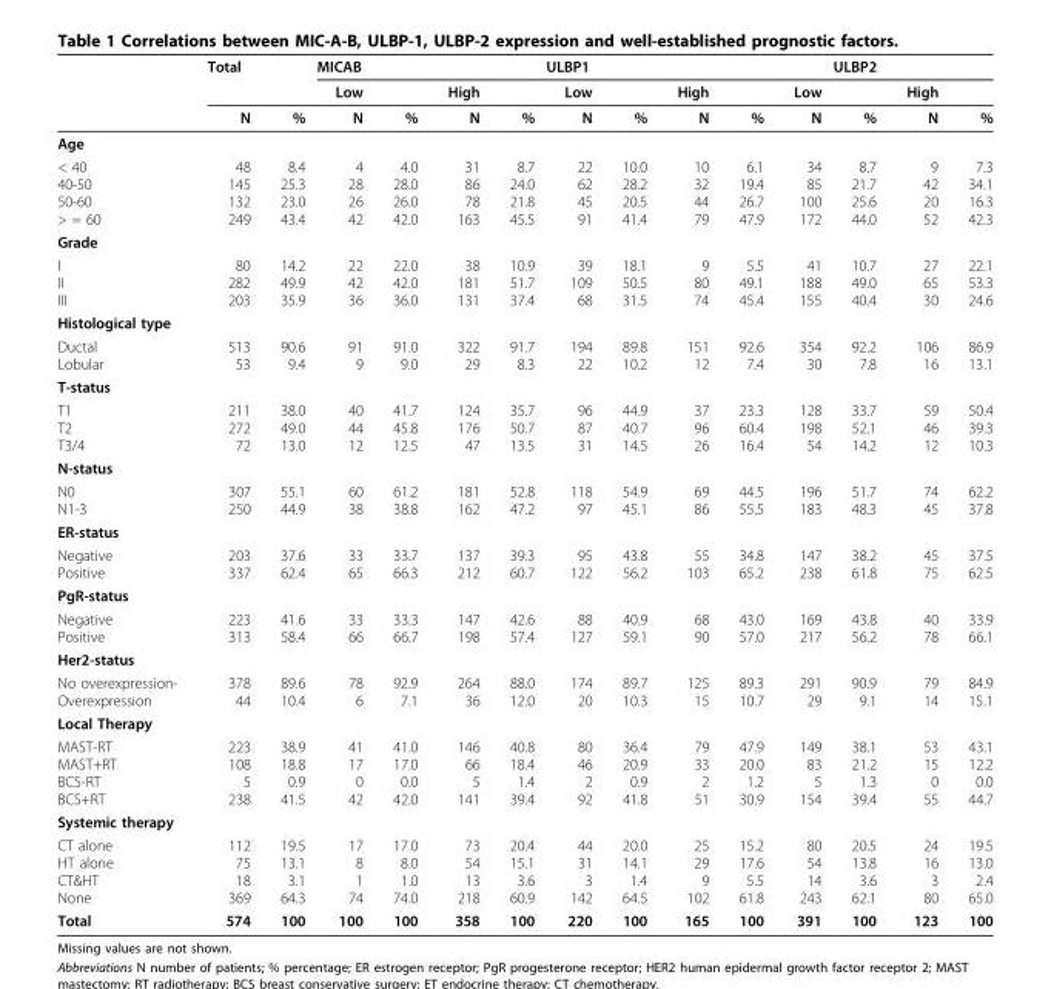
<table><thead><tr><td rowspan="3"></td><td colspan="2">Total</td><td colspan="2">MICAB</td><td rowspan="3">High N</td><td rowspan="3">%</td><td colspan="4">ULBP1</td><td colspan="2">ULBP2</td><td rowspan="3">High N</td><td rowspan="3">%</td></tr><tr><td rowspan="2">N</td><td rowspan="2">%</td><td rowspan="2">Low N</td><td rowspan="2">%</td><td rowspan="2">Low N</td><td rowspan="2">%</td><td rowspan="2">High N</td><td rowspan="2">%</td><td rowspan="2">Low N</td><td rowspan="2">%</td></tr><tr></tr></thead><tbody><tr><td colspan="15">Age</td></tr><tr><td>&lt; 40 40-50 50-60 &gt; = 60</td><td>48 145 132 249</td><td>8.4 25.3 23.0 43.4</td><td>4 28 26 42</td><td>4.0 28.0 26.0 42.0</td><td>31 86 78 163</td><td>8.7 24.0 21.8 45.5</td><td>22 62 45 91</td><td>10.0 28.2 20.5 41.4</td><td>10 32 44 79</td><td>6.1 19.4 26.7 47.9</td><td>34 85 100 172</td><td>8.7 21.7 25.6 44.0</td><td>9 42 20 52</td><td>7.3 34.1 16.3 42.3</td></tr><tr><td colspan="15">Grade</td></tr><tr><td>I II III</td><td>80 282 203</td><td>14.2 49.9 35.9</td><td>22 42 36</td><td>22.0 42.0 36.0</td><td>38 181 131</td><td>10.9 51.7 37.4</td><td>39 109 68</td><td>18.1 50.5 31.5</td><td>9 80 74</td><td>5.5 49.1 45.4</td><td>41 188 155</td><td>10.7 49.0 40.4</td><td>27 65 30</td><td>22.1 53.3 24.6</td></tr><tr><td colspan="15">Histological type</td></tr><tr><td>Ductal Lobular</td><td>513 53</td><td>90.6 9.4</td><td>91 9</td><td>91.0 9.0</td><td>322 29</td><td>91.7 8.3</td><td>194 22</td><td>89.8 10.2</td><td>151 12</td><td>92.6 7.4</td><td>354 30</td><td>92.2 7.8</td><td>106 16</td><td>86.9 13.1</td></tr><tr><td colspan="15">T-status</td></tr><tr><td>T1 T2 T3/4</td><td>211 272 72</td><td>38.0 49.0 13.0</td><td>40 44 12</td><td>41.7 45.8 12.5</td><td>124 176 47</td><td>35.7 50.7 13.5</td><td>96 87 31</td><td>44.9 40.7 14.5</td><td>37 96 26</td><td>23.3 60.4 16.4</td><td>128 198 54</td><td>33.7 52.1 14.2</td><td>59 46 12</td><td>50.4 39.3 10.3</td></tr><tr><td colspan="15">N-status</td></tr><tr><td>N0 N1-3</td><td>307 250</td><td>55.1 44.9</td><td>60 38</td><td>61.2 38.8</td><td>181 162</td><td>52.8 47.2</td><td>118 97</td><td>54.9 45.1</td><td>69 86</td><td>44.5 55.5</td><td>196 183</td><td>51.7 48.3</td><td>74 45</td><td>62.2 37.8</td></tr><tr><td colspan="15">ER-status</td></tr><tr><td>Negative Positive</td><td>203 337</td><td>37.6 62.4</td><td>33 65</td><td>33.7 66.3</td><td>137 212</td><td>39.3 60.7</td><td>95 122</td><td>43.8 56.2</td><td>55 103</td><td>34.8 65.2</td><td>147 238</td><td>38.2 61.8</td><td>45 75</td><td>37.5 62.5</td></tr><tr><td colspan="15">PgR-status</td></tr><tr><td>Negative Positive</td><td>223 313</td><td>41.6 58.4</td><td>33 66</td><td>33.3 66.7</td><td>147 198</td><td>42.6 57.4</td><td>88 127</td><td>40.9 59.1</td><td>68 90</td><td>43.0 57.0</td><td>169 217</td><td>43.8 56.2</td><td>40 78</td><td>33.9 66.1</td></tr><tr><td colspan="15">Her2-status</td></tr><tr><td>No overexpression- Overexpression</td><td>378 44</td><td>89.6 10.4</td><td>78 6</td><td>92.9 7.1</td><td>264 36</td><td>88.0 12.0</td><td>174 20</td><td>89.7 10.3</td><td>125 15</td><td>89.3 10.7</td><td>291 29</td><td>90.9 9.1</td><td>79 14</td><td>84.9 15.1</td></tr><tr><td colspan="15">Local Therapy</td></tr><tr><td>MAST-RT MAST+RT BCS-RT BCS+RT</td><td>223 108 5 238</td><td>38.9 18.8 0.9 41.5</td><td>41 17 0 42</td><td>41.0 17.0 0.0 42.0</td><td>146 66 5 141</td><td>40.8 18.4 1.4 39.4</td><td>80 46 2 92</td><td>36.4 20.9 0.9 41.8</td><td>79 33 2 51</td><td>47.9 20.0 1.2 30.9</td><td>149 83 5 154</td><td>38.1 21.2 1.3 39.4</td><td>53 15 0 55</td><td>43.1 12.2 0.0 44.7</td></tr><tr><td colspan="15">Systemic therapy</td></tr><tr><td>CT alone HT alone CT&amp;HT None</td><td>112 75 18 369</td><td>19.5 13.1 3.1 64.3</td><td>17 8 1 74</td><td>17.0 8.0 1.0 74.0</td><td>73 54 13 218</td><td>20.4 15.1 3.6 60.9</td><td>44 31 3 142</td><td>20.0 14.1 1.4 64.5</td><td>25 29 9 102</td><td>15.2 17.6 5.5 61.8</td><td>80 54 14 243</td><td>20.5 13.8 3.6 62.1</td><td>24 16 3 80</td><td>19.5 13.0 2.4 65.0</td></tr><tr><td>Total</td><td>574</td><td>100</td><td>100</td><td>100</td><td>358</td><td>100</td><td>220</td><td>100</td><td>165</td><td>100</td><td>391</td><td>100</td><td>123</td><td>100</td></tr></tbody></table>